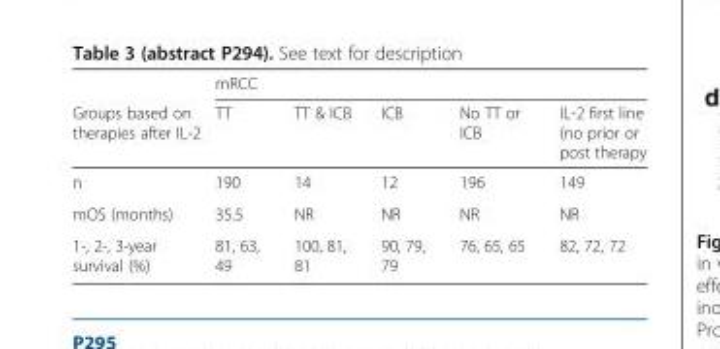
<table><thead><tr><td rowspan="2">Groups based on therapies after IL-2</td><td colspan="5">mRCC</td></tr><tr><td>TT</td><td>TT &amp; ICB</td><td>ICB</td><td>No TT or ICB</td><td>IL-2 first line (no prior or post therapy</td></tr></thead><tbody><tr><td>n</td><td>190</td><td>14</td><td>12</td><td>196</td><td>149</td></tr><tr><td>mOS (months)</td><td>35.5</td><td>NR</td><td>NR</td><td>NR</td><td>NR</td></tr><tr><td>1-, 2-, 3-year survival (%)</td><td>81, 63, 49</td><td>100, 81, 81</td><td>90, 79, 79</td><td>76, 65, 65</td><td>82, 72, 72</td></tr></tbody></table>